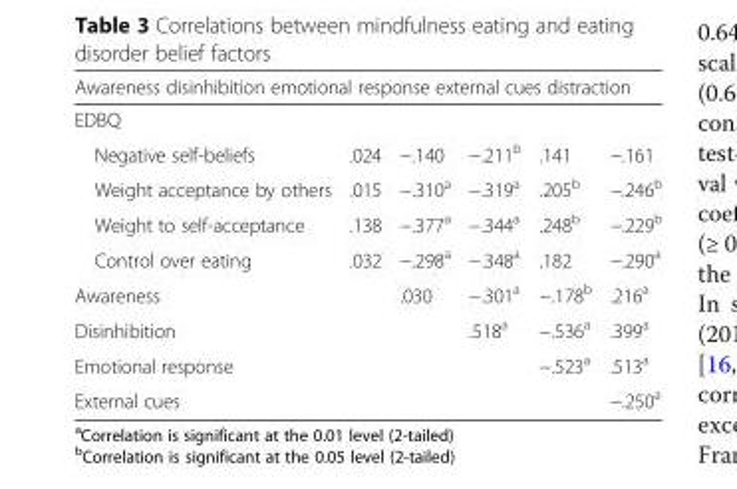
<table><thead><tr><td rowspan="2" colspan="6">Awareness disinhibition emotional response external cues distraction EDBQ</td></tr><tr></tr><tr><td>Negative self-beliefs</td><td>.024</td><td>−.140</td><td>−.211<sup>b</sup></td><td>.141</td><td>−.161</td></tr></thead><tbody><tr><td>Weight acceptance by others</td><td>.015</td><td>−.310<sup>a</sup></td><td>−.319<sup>a</sup></td><td>.205<sup>b</sup></td><td>−.246<sup>b</sup></td></tr><tr><td>Weight to self-acceptance</td><td>.138</td><td>−.377<sup>a</sup></td><td>−.344<sup>a</sup></td><td>.248<sup>b</sup></td><td>−.229<sup>b</sup></td></tr><tr><td>Control over eating</td><td>.032</td><td>−.298<sup>a</sup></td><td>−.348<sup>a</sup></td><td>.182</td><td>−.290<sup>a</sup></td></tr><tr><td>Awareness</td><td></td><td>.030</td><td>−.301<sup>a</sup></td><td>−.178<sup>b</sup></td><td>.216<sup>a</sup></td></tr><tr><td>Disinhibition</td><td></td><td></td><td>.518<sup>a</sup></td><td>−.536<sup>a</sup></td><td>.399<sup>a</sup></td></tr><tr><td>Emotional response</td><td></td><td></td><td></td><td>−.523<sup>a</sup></td><td>.513<sup>a</sup></td></tr><tr><td>External cues</td><td></td><td></td><td></td><td></td><td>−.250<sup>a</sup></td></tr></tbody></table>